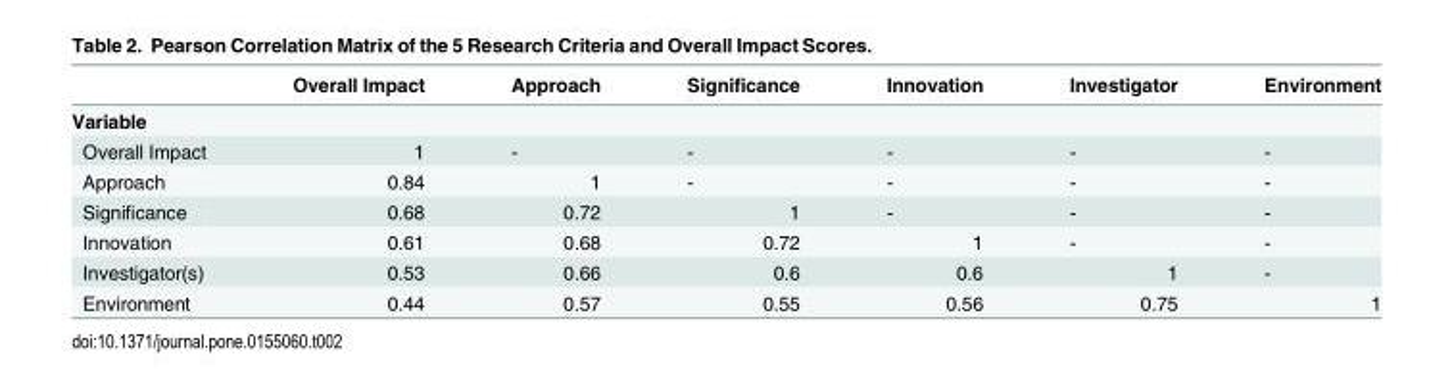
<table><thead><tr><td></td><td>Overall Impact</td><td>Approach</td><td>Significance</td><td>Innovation</td><td>Investigator</td><td>Environment</td></tr></thead><tbody><tr><td colspan="7">Variable</td></tr><tr><td>Overall Impact</td><td>1</td><td>-</td><td>-</td><td>-</td><td>-</td><td>-</td></tr><tr><td>Approach</td><td>0.84</td><td>1</td><td>-</td><td>-</td><td>-</td><td>-</td></tr><tr><td>Significance</td><td>0.68</td><td>0.72</td><td>1</td><td>-</td><td>-</td><td>-</td></tr><tr><td>Innovation</td><td>0.61</td><td>0.68</td><td>0.72</td><td>1</td><td>-</td><td>-</td></tr><tr><td>Investigator(s)</td><td>0.53</td><td>0.66</td><td>0.6</td><td>0.6</td><td>1</td><td>-</td></tr><tr><td>Environment</td><td>0.44</td><td>0.57</td><td>0.55</td><td>0.56</td><td>0.75</td><td>1</td></tr></tbody></table>